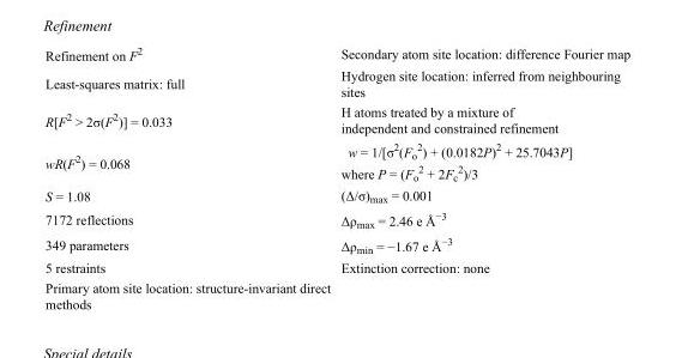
<table><tbody><tr><td>Refinement on F<sup>2</sup></td><td>Secondary atom site location: difference Fourier map</td></tr><tr><td>Least-squares matrix: full</td><td>Hydrogen site location: inferred from neighbouring sites</td></tr><tr><td>R[F<sup>2</sup> &gt; 2σ(F<sup>2</sup>)] = 0.033</td><td>H atoms treated by a mixture of independent and constrained refinement</td></tr><tr><td>wR(F<sup>2</sup>) = 0.068</td><td>w = 1/[σ<sup>2</sup>(F<sub>o</sub> <sup>2</sup>) + (0.0182P)<sup>2</sup> + 25.7043P] where P = (F<sub>o</sub> <sup>2</sup> + 2F<sub>c</sub> <sup>2</sup>)/3</td></tr><tr><td>S = 1.08</td><td>(Δ/σ)<sub>max</sub> = 0.001</td></tr><tr><td>7172 reflections</td><td>Δρ<sub>max</sub> = 2.46 e Å<sup>−3</sup></td></tr><tr><td>349 parameters</td><td>Δρ<sub>min</sub> = −1.67 e Å<sup>−3</sup></td></tr><tr><td>5 restraints</td><td>Extinction correction: none</td></tr><tr><td>Primary atom site location: structure-invariant direct methods</td><td></td></tr></tbody></table>